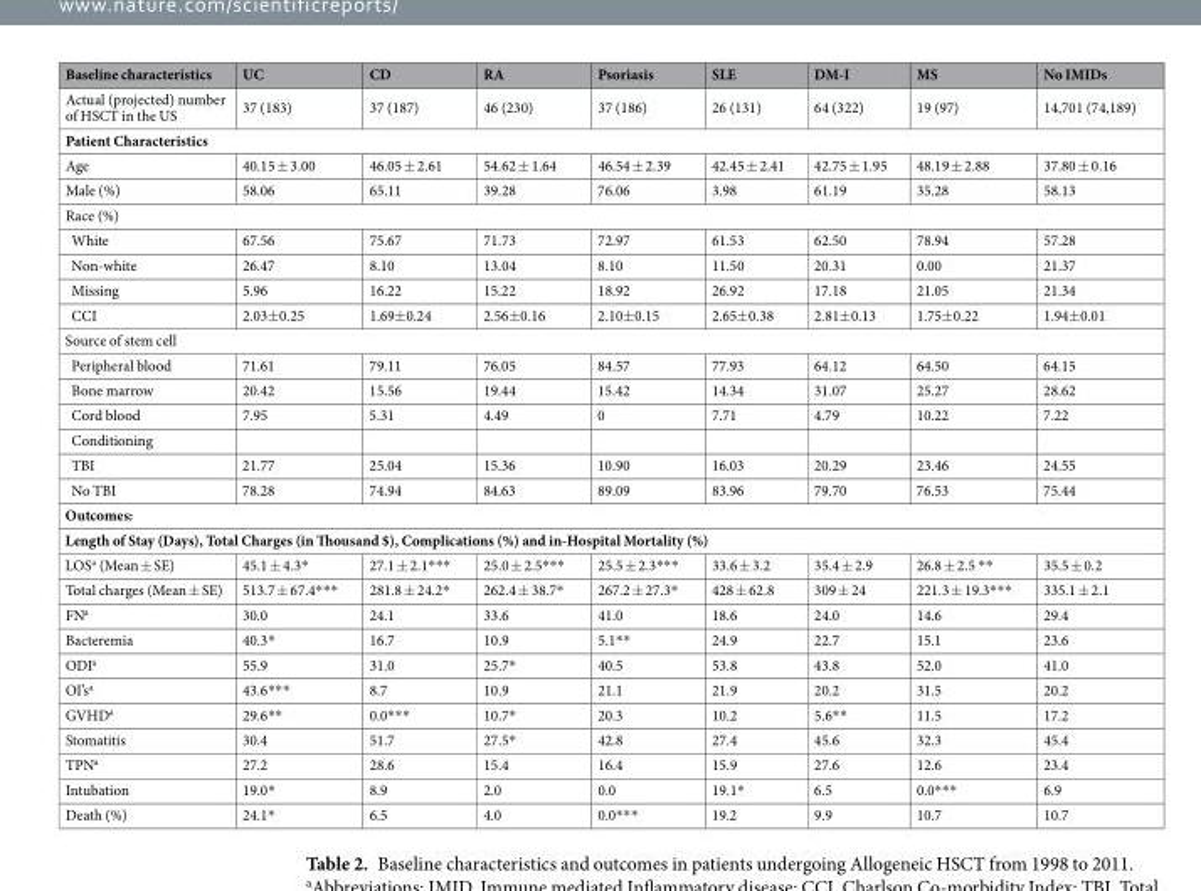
<table><thead><tr><td>Baseline characteristics</td><td>UC</td><td>CD</td><td>RA</td><td>Psoriasis</td><td>SLE</td><td>DM-I</td><td>MS</td><td>No IMIDs</td></tr></thead><tbody><tr><td>Actual (projected) number of HSCT in the US</td><td>37 (183)</td><td>37 (187)</td><td>46 (230)</td><td>37 (186)</td><td>26 (131)</td><td>64 (322)</td><td>19 (97)</td><td>14,701 (74,189)</td></tr><tr><td colspan="9">Patient Characteristics</td></tr><tr><td>Age</td><td>40.15 ± 3.00</td><td>46.05 ± 2.61</td><td>54.62 ± 1.64</td><td>46.54 ± 2.39</td><td>42.45 ± 2.41</td><td>42.75 ± 1.95</td><td>48.19 ± 2.88</td><td>37.80 ± 0.16</td></tr><tr><td>Male (%)</td><td>58.06</td><td>65.11</td><td>39.28</td><td>76.06</td><td>3.98</td><td>61.19</td><td>35.28</td><td>58.13</td></tr><tr><td colspan="9">Race (%)</td></tr><tr><td>White</td><td>67.56</td><td>75.67</td><td>71.73</td><td>72.97</td><td>61.53</td><td>62.50</td><td>78.94</td><td>57.28</td></tr><tr><td>Non-white</td><td>26.47</td><td>8.10</td><td>13.04</td><td>8.10</td><td>11.50</td><td>20.31</td><td>0.00</td><td>21.37</td></tr><tr><td>Missing</td><td>5.96</td><td>16.22</td><td>15.22</td><td>18.92</td><td>26.92</td><td>17.18</td><td>21.05</td><td>21.34</td></tr><tr><td>CCI</td><td>2.03±0.25</td><td>1.69±0.24</td><td>2.56±0.16</td><td>2.10±0.15</td><td>2.65±0.38</td><td>2.81±0.13</td><td>1.75±0.22</td><td>1.94±0.01</td></tr><tr><td colspan="9">Source of stem cell</td></tr><tr><td>Peripheral blood</td><td>71.61</td><td>79.11</td><td>76.05</td><td>84.57</td><td>77.93</td><td>64.12</td><td>64.50</td><td>64.15</td></tr><tr><td>Bone marrow</td><td>20.42</td><td>15.56</td><td>19.44</td><td>15.42</td><td>14.34</td><td>31.07</td><td>25.27</td><td>28.62</td></tr><tr><td>Cord blood</td><td>7.95</td><td>5.31</td><td>4.49</td><td>0</td><td>7.71</td><td>4.79</td><td>10.22</td><td>7.22</td></tr><tr><td colspan="9">Conditioning</td></tr><tr><td>TBI</td><td>21.77</td><td>25.04</td><td>15.36</td><td>10.90</td><td>16.03</td><td>20.29</td><td>23.46</td><td>24.55</td></tr><tr><td>No TBI</td><td>78.28</td><td>74.94</td><td>84.63</td><td>89.09</td><td>83.96</td><td>79.70</td><td>76.53</td><td>75.44</td></tr><tr><td colspan="9">Outcomes:</td></tr><tr><td colspan="9">Length of Stay (Days), Total Charges (in Thousand $), Complications (%) and in-Hospital Mortality (%)</td></tr><tr><td>LOS<sup>a</sup> (Mean ± SE)</td><td>45.1 ± 4.3*</td><td>27.1 ± 2.1***</td><td>25.0 ± 2.5***</td><td>25.5 ± 2.3***</td><td>33.6 ± 3.2</td><td>35.4 ± 2.9</td><td>26.8 ± 2.5 **</td><td>35.5 ± 0.2</td></tr><tr><td>Total charges (Mean ± SE)</td><td>513.7 ± 67.4***</td><td>281.8 ± 24.2*</td><td>262.4 ± 38.7*</td><td>267.2 ± 27.3*</td><td>428 ± 62.8</td><td>309 ± 24</td><td>221.3 ± 19.3***</td><td>335.1 ± 2.1</td></tr><tr><td>FN<sup>a</sup></td><td>30.0</td><td>24.1</td><td>33.6</td><td>41.0</td><td>18.6</td><td>24.0</td><td>14.6</td><td>29.4</td></tr><tr><td>Bacteremia</td><td>40.3*</td><td>16.7</td><td>10.9</td><td>5.1**</td><td>24.9</td><td>22.7</td><td>15.1</td><td>23.6</td></tr><tr><td>ODI<sup>a</sup></td><td>55.9</td><td>31.0</td><td>25.7*</td><td>40.5</td><td>53.8</td><td>43.8</td><td>52.0</td><td>41.0</td></tr><tr><td>OI’s<sup>a</sup></td><td>43.6***</td><td>8.7</td><td>10.9</td><td>21.1</td><td>21.9</td><td>20.2</td><td>31.5</td><td>20.2</td></tr><tr><td>GVHD<sup>a</sup></td><td>29.6**</td><td>0.0***</td><td>10.7*</td><td>20.3</td><td>10.2</td><td>5.6**</td><td>11.5</td><td>17.2</td></tr><tr><td>Stomatitis</td><td>30.4</td><td>51.7</td><td>27.5*</td><td>42.8</td><td>27.4</td><td>45.6</td><td>32.3</td><td>45.4</td></tr><tr><td>TPN<sup>a</sup></td><td>27.2</td><td>28.6</td><td>15.4</td><td>16.4</td><td>15.9</td><td>27.6</td><td>12.6</td><td>23.4</td></tr><tr><td>Intubation</td><td>19.0*</td><td>8.9</td><td>2.0</td><td>0.0</td><td>19.1*</td><td>6.5</td><td>0.0***</td><td>6.9</td></tr><tr><td>Death (%)</td><td>24.1*</td><td>6.5</td><td>4.0</td><td>0.0***</td><td>19.2</td><td>9.9</td><td>10.7</td><td>10.7</td></tr></tbody></table>